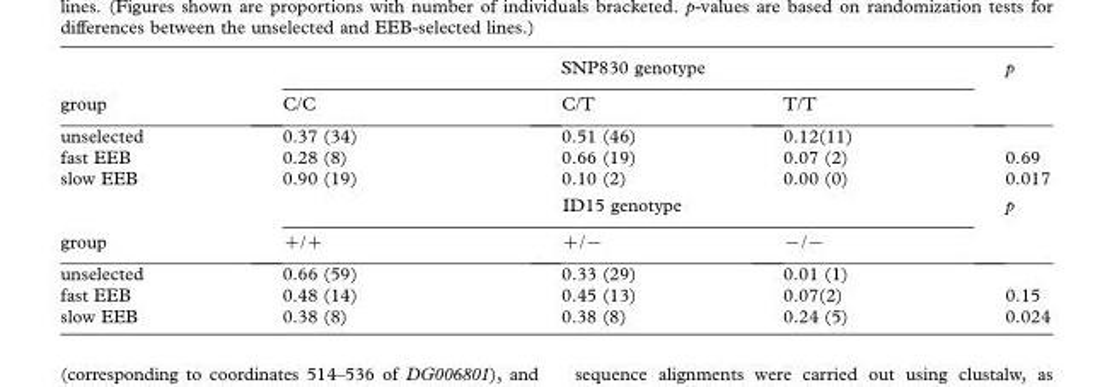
<table><thead><tr><td rowspan="2">group</td><td colspan="3">SNP830 genotype</td><td rowspan="2">p</td></tr><tr><td>C/C</td><td>C/T</td><td>T/T</td></tr></thead><tbody><tr><td>unselected</td><td>0.37 (34)</td><td>0.51 (46)</td><td>0.12(11)</td><td></td></tr><tr><td>fast EEB</td><td>0.28 (8)</td><td>0.66 (19)</td><td>0.07 (2)</td><td>0.69</td></tr><tr><td rowspan="2">slow EEB</td><td>0.90 (19)</td><td>0.10 (2)</td><td>0.00 (0)</td><td>0.017</td></tr><tr><td colspan="3">ID15 genotype</td><td>p</td></tr><tr><td>group</td><td>+/+</td><td>+/−</td><td>−/−</td><td></td></tr><tr><td>unselected</td><td>0.66 (59)</td><td>0.33 (29)</td><td>0.01 (1)</td><td></td></tr><tr><td>fast EEB</td><td>0.48 (14)</td><td>0.45 (13)</td><td>0.07(2)</td><td>0.15</td></tr><tr><td>slow EEB</td><td>0.38 (8)</td><td>0.38 (8)</td><td>0.24 (5)</td><td>0.024</td></tr></tbody></table>